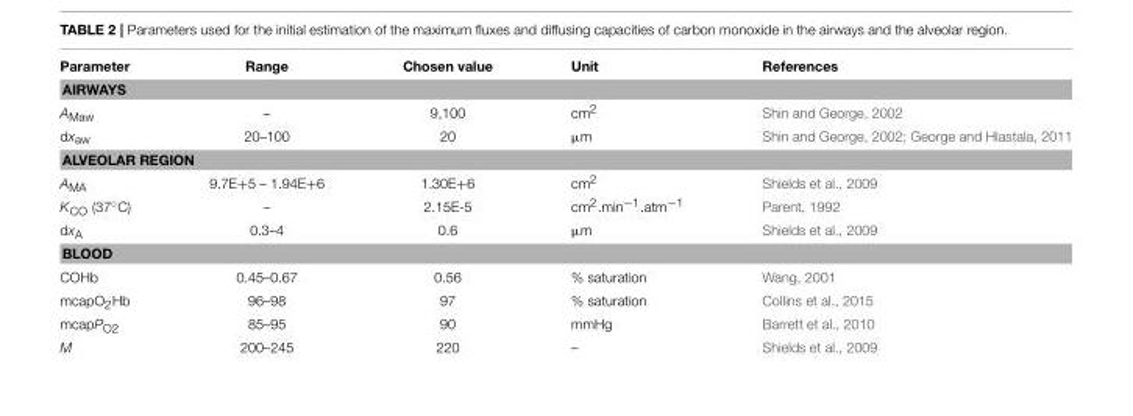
<table><thead><tr><td>Parameter</td><td>Range</td><td>Chosen value</td><td>Unit</td><td>References</td></tr></thead><tbody><tr><td colspan="5">AIRWAYS</td></tr><tr><td>A<sub>Maw</sub></td><td>–</td><td>9,100</td><td>cm<sup>2</sup></td><td>Shin and George, 2002</td></tr><tr><td>dx<sub>aw</sub></td><td>20–100</td><td>20</td><td>µm</td><td>Shin and George, 2002; George and Hlastala, 2011</td></tr><tr><td colspan="5">ALVEOLAR REGION</td></tr><tr><td>A<sub>MA</sub></td><td>9.7E+5 – 1.94E+6</td><td>1.30E+6</td><td>cm<sup>2</sup></td><td>Shields et al., 2009</td></tr><tr><td>KCO (37◦C)</td><td>–</td><td>2.15E-5</td><td>cm<sup>2</sup>.min<sup>−1</sup>.atm<sup>−1</sup></td><td>Parent, 1992</td></tr><tr><td>dx<sub>A</sub></td><td>0.3–4</td><td>0.6</td><td>µm</td><td>Shields et al., 2009</td></tr><tr><td colspan="5">BLOOD</td></tr><tr><td>COHb</td><td>0.45–0.67</td><td>0.56</td><td>% saturation</td><td>Wang, 2001</td></tr><tr><td>mcapO<sub>2</sub>Hb</td><td>96–98</td><td>97</td><td>% saturation</td><td>Collins et al., 2015</td></tr><tr><td>mcapP<sub>O2</sub></td><td>85–95</td><td>90</td><td>mmHg</td><td>Barrett et al., 2010</td></tr><tr><td>M</td><td>200–245</td><td>220</td><td>–</td><td>Shields et al., 2009</td></tr></tbody></table>